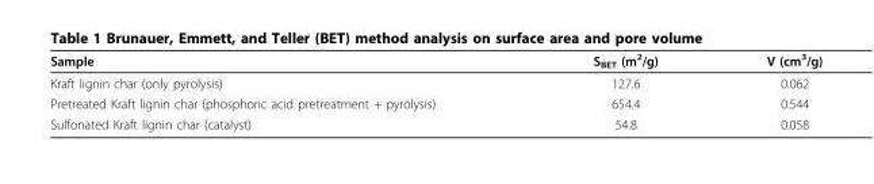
<table><thead><tr><td>Sample</td><td>S<sub>BET</sub> (m<sup>2</sup>/g)</td><td>V (cm<sup>3</sup>/g)</td></tr></thead><tbody><tr><td>Kraft lignin char (only pyrolysis)</td><td>127.6</td><td>0.062</td></tr><tr><td>Pretreated Kraft lignin char (phosphoric acid pretreatment + pyrolysis)</td><td>654.4</td><td>0.544</td></tr><tr><td>Sulfonated Kraft lignin char (catalyst)</td><td>54.8</td><td>0.058</td></tr></tbody></table>